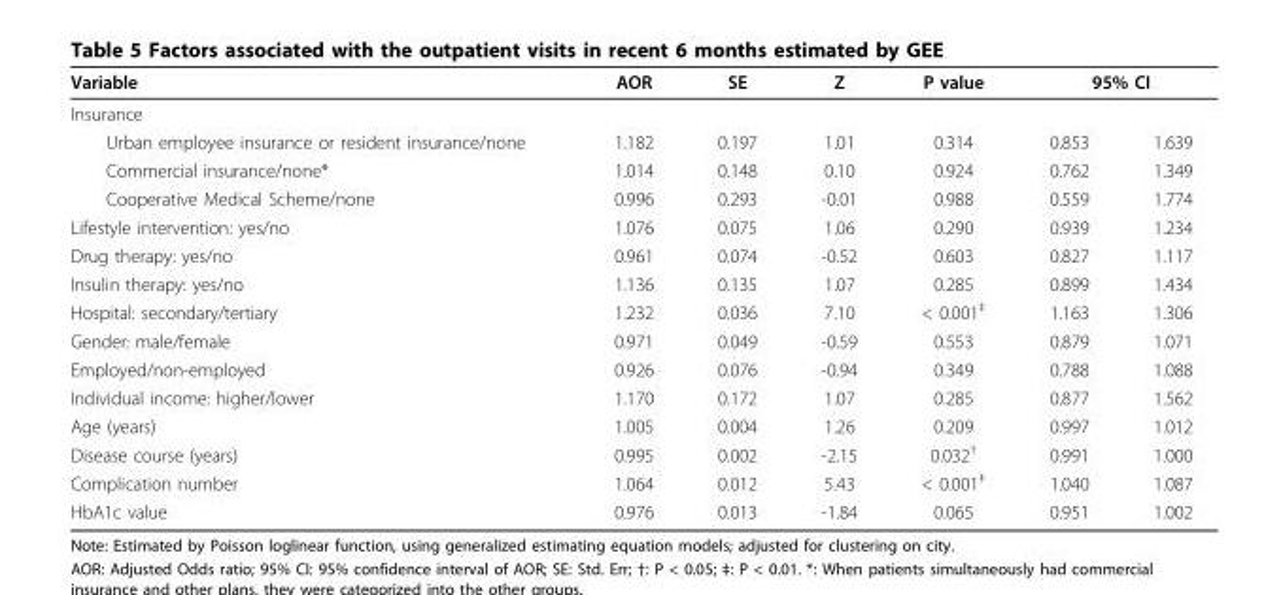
<table><thead><tr><td rowspan="2">Variable Insurance</td><td rowspan="2">AOR</td><td rowspan="2">SE</td><td rowspan="2">Z</td><td rowspan="2">P value</td><td colspan="2">95% CI</td></tr><tr><td></td><td></td></tr></thead><tbody><tr><td>Urban employee insurance or resident insurance/none</td><td>1.182</td><td>0.197</td><td>1.01</td><td>0.314</td><td>0.853</td><td>1.639</td></tr><tr><td>Commercial insurance/none*</td><td>1.014</td><td>0.148</td><td>0.10</td><td>0.924</td><td>0.762</td><td>1.349</td></tr><tr><td>Cooperative Medical Scheme/none</td><td>0.996</td><td>0.293</td><td>-0.01</td><td>0.988</td><td>0.559</td><td>1.774</td></tr><tr><td>Lifestyle intervention: yes/no</td><td>1.076</td><td>0.075</td><td>1.06</td><td>0.290</td><td>0.939</td><td>1.234</td></tr><tr><td>Drug therapy: yes/no</td><td>0.961</td><td>0.074</td><td>-0.52</td><td>0.603</td><td>0.827</td><td>1.117</td></tr><tr><td>Insulin therapy: yes/no</td><td>1.136</td><td>0.135</td><td>1.07</td><td>0.285</td><td>0.899</td><td>1.434</td></tr><tr><td>Hospital: secondary/tertiary</td><td>1.232</td><td>0.036</td><td>7.10</td><td>&lt; 0.001<sup>‡</sup></td><td>1.163</td><td>1.306</td></tr><tr><td>Gender: male/female</td><td>0.971</td><td>0.049</td><td>-0.59</td><td>0.553</td><td>0.879</td><td>1.071</td></tr><tr><td>Employed/non-employed</td><td>0.926</td><td>0.076</td><td>-0.94</td><td>0.349</td><td>0.788</td><td>1.088</td></tr><tr><td>Individual income: higher/lower</td><td>1.170</td><td>0.172</td><td>1.07</td><td>0.285</td><td>0.877</td><td>1.562</td></tr><tr><td>Age (years)</td><td>1.005</td><td>0.004</td><td>1.26</td><td>0.209</td><td>0.997</td><td>1.012</td></tr><tr><td>Disease course (years)</td><td>0.995</td><td>0.002</td><td>-2.15</td><td>0.032<sup>†</sup></td><td>0.991</td><td>1.000</td></tr><tr><td>Complication number</td><td>1.064</td><td>0.012</td><td>5.43</td><td>&lt; 0.001<sup>‡</sup></td><td>1.040</td><td>1.087</td></tr><tr><td>HbA1c value</td><td>0.976</td><td>0.013</td><td>-1.84</td><td>0.065</td><td>0.951</td><td>1.002</td></tr></tbody></table>